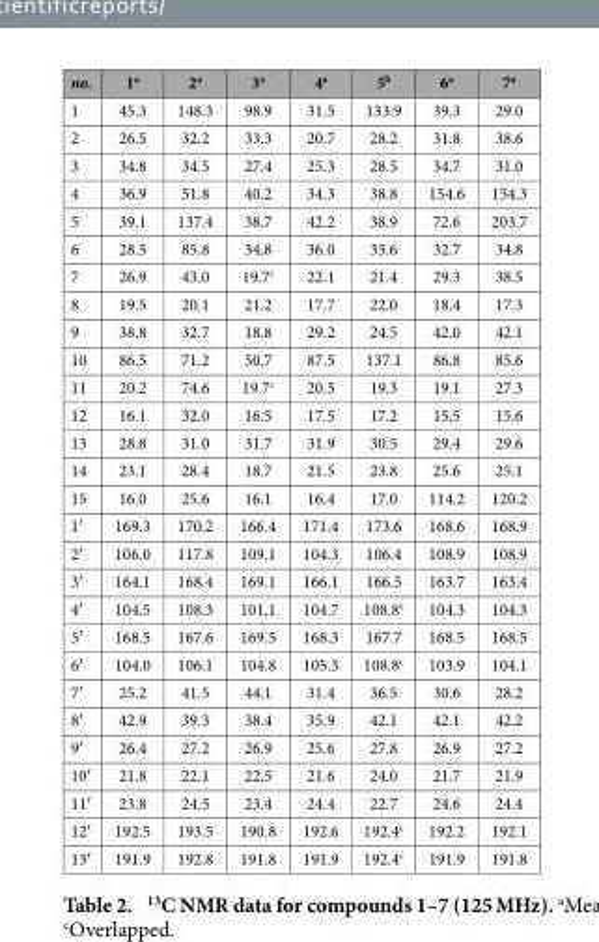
<table><thead><tr><td>no.</td><td>1<sup>a</sup></td><td>2<sup>a</sup></td><td>3<sup>a</sup></td><td>4<sup>a</sup></td><td>5<sup>b</sup></td><td>6<sup>a</sup></td><td>7<sup>a</sup></td></tr></thead><tbody><tr><td>1</td><td>45.3</td><td>148.3</td><td>98.9</td><td>31.5</td><td>133.9</td><td>39.3</td><td>29.0</td></tr><tr><td>2</td><td>26.5</td><td>32.2</td><td>33.3</td><td>20.7</td><td>28.2</td><td>31.8</td><td>38.6</td></tr><tr><td>3</td><td>34.8</td><td>34.5</td><td>27.4</td><td>25.3</td><td>28.5</td><td>34.7</td><td>31.0</td></tr><tr><td>4</td><td>36.9</td><td>51.8</td><td>40.2</td><td>34.3</td><td>38.8</td><td>154.6</td><td>154.3</td></tr><tr><td>5</td><td>39.1</td><td>137.4</td><td>38.7</td><td>42.2</td><td>38.9</td><td>72.6</td><td>203.7</td></tr><tr><td>6</td><td>28.5</td><td>85.8</td><td>34.8</td><td>36.0</td><td>35.6</td><td>32.7</td><td>34.8</td></tr><tr><td>7</td><td>26.9</td><td>43.0</td><td>19.7<sup>c</sup></td><td>22.1</td><td>21.4</td><td>29.3</td><td>38.5</td></tr><tr><td>8</td><td>19.5</td><td>20.1</td><td>21.2</td><td>17.7</td><td>22.0</td><td>18.4</td><td>17.3</td></tr><tr><td>9</td><td>38.8</td><td>32.7</td><td>18.8</td><td>29.2</td><td>24.5</td><td>42.0</td><td>42.1</td></tr><tr><td>10</td><td>86.5</td><td>71.2</td><td>50.7</td><td>87.5</td><td>137.1</td><td>86.8</td><td>85.6</td></tr><tr><td>11</td><td>20.2</td><td>74.6</td><td>19.7<sup>c</sup></td><td>20.5</td><td>19.3</td><td>19.1</td><td>27.3</td></tr><tr><td>12</td><td>16.1</td><td>32.0</td><td>16.5</td><td>17.5</td><td>17.2</td><td>15.5</td><td>15.6</td></tr><tr><td>13</td><td>28.8</td><td>31.0</td><td>31.7</td><td>31.9</td><td>30.5</td><td>29.4</td><td>29.6</td></tr><tr><td>14</td><td>23.1</td><td>28.4</td><td>18.7</td><td>21.5</td><td>23.8</td><td>25.6</td><td>25.1</td></tr><tr><td>15</td><td>16.0</td><td>25.6</td><td>16.1</td><td>16.4</td><td>17.0</td><td>114.2</td><td>120.2</td></tr><tr><td>1′</td><td>169.3</td><td>170.2</td><td>166.4</td><td>171.4</td><td>173.6</td><td>168.6</td><td>168.9</td></tr><tr><td>2′</td><td>106.0</td><td>117.8</td><td>109.1</td><td>104.3</td><td>106.4</td><td>108.9</td><td>108.9</td></tr><tr><td>3′</td><td>164.1</td><td>168.4</td><td>169.1</td><td>166.1</td><td>166.5</td><td>163.7</td><td>163.4</td></tr><tr><td>4′</td><td>104.5</td><td>108.3</td><td>101.1</td><td>104.7</td><td>108.8<sup>c</sup></td><td>104.3</td><td>104.3</td></tr><tr><td>5′</td><td>168.5</td><td>167.6</td><td>169.5</td><td>168.3</td><td>167.7</td><td>168.5</td><td>168.5</td></tr><tr><td>6′</td><td>104.0</td><td>106.1</td><td>104.8</td><td>105.3</td><td>108.8<sup>c</sup></td><td>103.9</td><td>104.1</td></tr><tr><td>7′</td><td>25.2</td><td>41.5</td><td>44.1</td><td>31.4</td><td>36.5</td><td>30.6</td><td>28.2</td></tr><tr><td>8′</td><td>42.9</td><td>39.3</td><td>38.4</td><td>35.9</td><td>42.1</td><td>42.1</td><td>42.2</td></tr><tr><td>9′</td><td>26.4</td><td>27.2</td><td>26.9</td><td>25.6</td><td>27.8</td><td>26.9</td><td>27.2</td></tr><tr><td>10′</td><td>21.8</td><td>22.1</td><td>22.5</td><td>21.6</td><td>24.0</td><td>21.7</td><td>21.9</td></tr><tr><td>11′</td><td>23.8</td><td>24.5</td><td>23.4</td><td>24.4</td><td>22.7</td><td>24.6</td><td>24.4</td></tr><tr><td>12′</td><td>192.5</td><td>193.5</td><td>190.8</td><td>192.6</td><td>192.4<sup>c</sup></td><td>192.2</td><td>192.1</td></tr><tr><td>13′</td><td>191.9</td><td>192.8</td><td>191.8</td><td>191.9</td><td>192.4<sup>c</sup></td><td>191.9</td><td>191.8</td></tr></tbody></table>